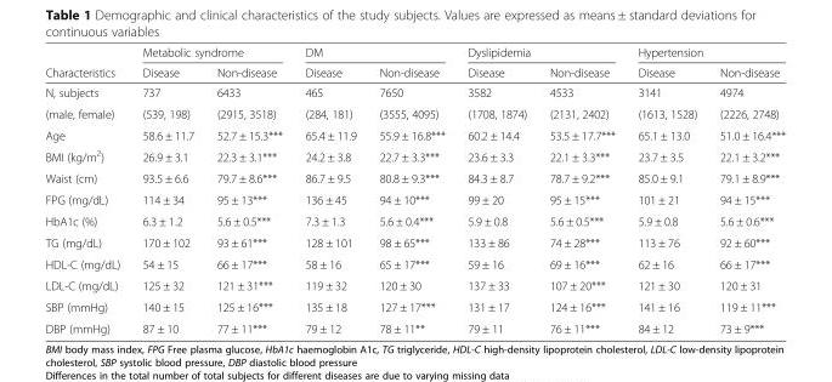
<table><thead><tr><td rowspan="2">Characteristics</td><td colspan="2">Metabolic syndrome</td><td colspan="2">DM</td><td colspan="2">Dyslipidemia</td><td colspan="2">Hypertension</td></tr><tr><td>Disease</td><td>Non-disease</td><td>Disease</td><td>Non-disease</td><td>Disease</td><td>Non-disease</td><td>Disease</td><td>Non-disease</td></tr></thead><tbody><tr><td>N, subjects</td><td>737</td><td>6433</td><td>465</td><td>7650</td><td>3582</td><td>4533</td><td>3141</td><td>4974</td></tr><tr><td>(male, female)</td><td>(539, 198)</td><td>(2915, 3518)</td><td>(284, 181)</td><td>(3555, 4095)</td><td>(1708, 1874)</td><td>(2131, 2402)</td><td>(1613, 1528)</td><td>(2226, 2748)</td></tr><tr><td>Age</td><td>58.6 ± 11.7</td><td>52.7 ± 15.3***</td><td>65.4 ± 11.9</td><td>55.9 ± 16.8***</td><td>60.2 ± 14.4</td><td>53.5 ± 17.7***</td><td>65.1 ± 13.0</td><td>51.0 ± 16.4***</td></tr><tr><td>BMI (kg/m<sup>2</sup>)</td><td>26.9 ± 3.1</td><td>22.3 ± 3.1***</td><td>24.2 ± 3.8</td><td>22.7 ± 3.3***</td><td>23.6 ± 3.3</td><td>22.1 ± 3.3***</td><td>23.7 ± 3.5</td><td>22.1 ± 3.2***</td></tr><tr><td>Waist (cm)</td><td>93.5 ± 6.6</td><td>79.7 ± 8.6***</td><td>86.7 ± 9.5</td><td>80.8 ± 9.3***</td><td>84.3 ± 8.7</td><td>78.7 ± 9.2***</td><td>85.0 ± 9.1</td><td>79.1 ± 8.9***</td></tr><tr><td>FPG (mg/dL)</td><td>114 ± 34</td><td>95 ± 13***</td><td>136 ± 45</td><td>94 ± 10***</td><td>99 ± 20</td><td>95 ± 15***</td><td>101 ± 21</td><td>94 ± 15***</td></tr><tr><td>HbA1c (%)</td><td>6.3 ± 1.2</td><td>5.6 ± 0.5***</td><td>7.3 ± 1.3</td><td>5.6 ± 0.4***</td><td>5.9 ± 0.8</td><td>5.6 ± 0.5***</td><td>5.9 ± 0.8</td><td>5.6 ± 0.6***</td></tr><tr><td>TG (mg/dL)</td><td>170 ± 102</td><td>93 ± 61***</td><td>128 ± 101</td><td>98 ± 65***</td><td>133 ± 86</td><td>74 ± 28***</td><td>113 ± 76</td><td>92 ± 60***</td></tr><tr><td>HDL-C (mg/dL)</td><td>54 ± 15</td><td>66 ± 17***</td><td>58 ± 16</td><td>65 ± 17***</td><td>59 ± 16</td><td>69 ± 16***</td><td>62 ± 16</td><td>66 ± 17***</td></tr><tr><td>LDL-C (mg/dL)</td><td>125 ± 32</td><td>121 ± 31***</td><td>119 ± 32</td><td>120 ± 30</td><td>137 ± 33</td><td>107 ± 20***</td><td>121 ± 30</td><td>120 ± 31</td></tr><tr><td>SBP (mmHg)</td><td>140 ± 15</td><td>125 ± 16***</td><td>135 ± 18</td><td>127 ± 17***</td><td>131 ± 17</td><td>124 ± 16***</td><td>141 ± 16</td><td>119 ± 11***</td></tr><tr><td>DBP (mmHg)</td><td>87 ± 10</td><td>77 ± 11***</td><td>79 ± 12</td><td>78 ± 11**</td><td>79 ± 11</td><td>76 ± 11***</td><td>84 ± 12</td><td>73 ± 9***</td></tr></tbody></table>